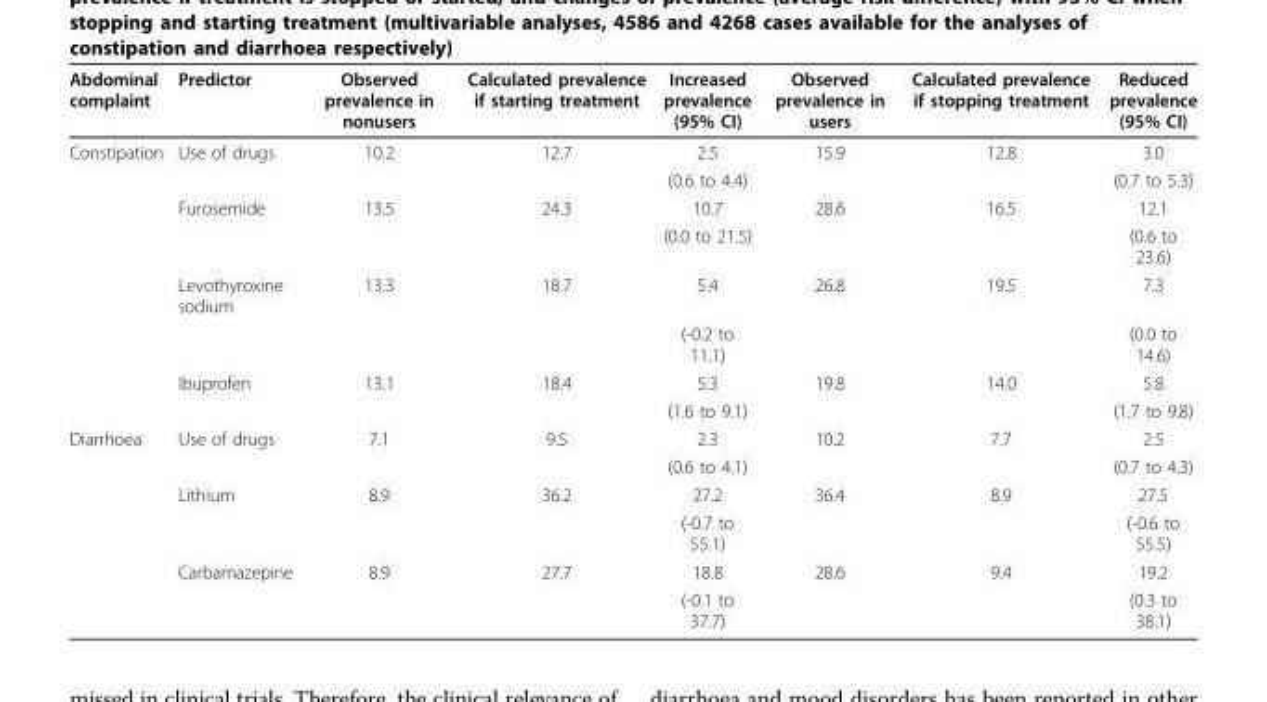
<table><thead><tr><td>Abdominal complaint</td><td>Predictor</td><td>Observed prevalence in nonusers</td><td>Calculated prevalence if starting treatment</td><td>Increased prevalence (95% CI)</td><td>Observed prevalence in users</td><td>Calculated prevalence if stopping treatment</td><td>Reduced prevalence (95% CI)</td></tr></thead><tbody><tr><td rowspan="8">Constipation</td><td>Use of drugs</td><td>10.2</td><td>12.7</td><td>2.5</td><td>15.9</td><td>12.8</td><td>3.0</td></tr><tr><td></td><td></td><td></td><td>(0.6 to 4.4)</td><td></td><td></td><td>(0.7 to 5.3)</td></tr><tr><td>Furosemide</td><td>13.5</td><td>24.3</td><td>10.7</td><td>28.6</td><td>16.5</td><td>12.1</td></tr><tr><td></td><td></td><td></td><td>(0.0 to 21.5)</td><td></td><td></td><td>(0.6 to 23.6)</td></tr><tr><td>Levothyroxine sodium</td><td>13.3</td><td>18.7</td><td>5.4</td><td>26.8</td><td>19.5</td><td>7.3</td></tr><tr><td></td><td></td><td></td><td>(-0.2 to 11.1)</td><td></td><td></td><td>(0.0 to 14.6)</td></tr><tr><td>Ibuprofen</td><td>13.1</td><td>18.4</td><td>5.3</td><td>19.8</td><td>14.0</td><td>5.8</td></tr><tr><td></td><td></td><td></td><td>(1.6 to 9.1)</td><td></td><td></td><td>(1.7 to 9.8)</td></tr><tr><td rowspan="6">Diarrhoea</td><td>Use of drugs</td><td>7.1</td><td>9.5</td><td>2.3</td><td>10.2</td><td>7.7</td><td>2.5</td></tr><tr><td></td><td></td><td></td><td>(0.6 to 4.1)</td><td></td><td></td><td>(0.7 to 4.3)</td></tr><tr><td>Lithium</td><td>8.9</td><td>36.2</td><td>27.2</td><td>36.4</td><td>8.9</td><td>27.5</td></tr><tr><td></td><td></td><td></td><td>(-0.7 to 55.1)</td><td></td><td></td><td>(-0.6 to 55.5)</td></tr><tr><td>Carbamazepine</td><td>8.9</td><td>27.7</td><td>18.8</td><td>28.6</td><td>9.4</td><td>19.2</td></tr><tr><td></td><td></td><td></td><td>(-0.1 to 37.7)</td><td></td><td></td><td>(0.3 to 38.1)</td></tr></tbody></table>